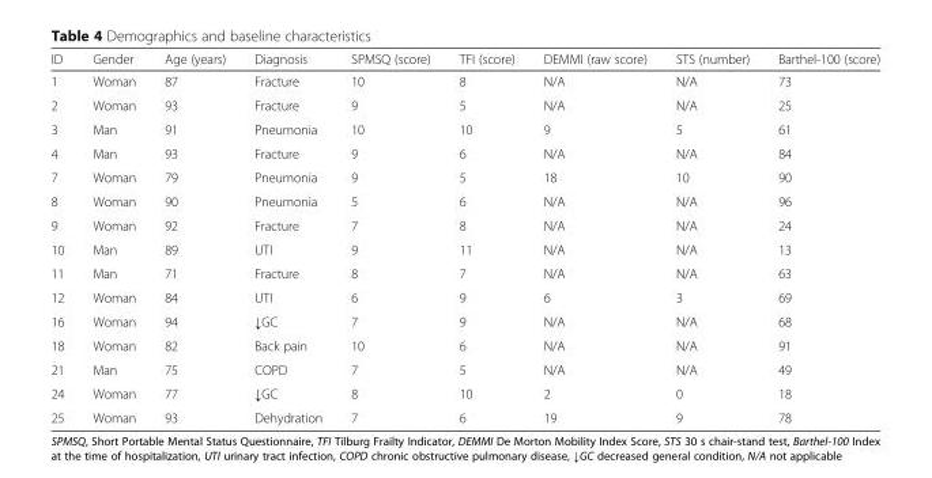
<table><thead><tr><td>ID</td><td>Gender</td><td>Age (years)</td><td>Diagnosis</td><td>SPMSQ (score)</td><td>TFI (score)</td><td>DEMMI (raw score)</td><td>STS (number)</td><td>Barthel-100 (score)</td></tr></thead><tbody><tr><td>1</td><td>Woman</td><td>87</td><td>Fracture</td><td>10</td><td>8</td><td>N/A</td><td>N/A</td><td>73</td></tr><tr><td>2</td><td>Woman</td><td>93</td><td>Fracture</td><td>9</td><td>5</td><td>N/A</td><td>N/A</td><td>25</td></tr><tr><td>3</td><td>Man</td><td>91</td><td>Pneumonia</td><td>10</td><td>10</td><td>9</td><td>5</td><td>61</td></tr><tr><td>4</td><td>Man</td><td>93</td><td>Fracture</td><td>9</td><td>6</td><td>N/A</td><td>N/A</td><td>84</td></tr><tr><td>7</td><td>Woman</td><td>79</td><td>Pneumonia</td><td>9</td><td>5</td><td>18</td><td>10</td><td>90</td></tr><tr><td>8</td><td>Woman</td><td>90</td><td>Pneumonia</td><td>5</td><td>6</td><td>N/A</td><td>N/A</td><td>96</td></tr><tr><td>9</td><td>Woman</td><td>92</td><td>Fracture</td><td>7</td><td>8</td><td>N/A</td><td>N/A</td><td>24</td></tr><tr><td>10</td><td>Man</td><td>89</td><td>UTI</td><td>9</td><td>11</td><td>N/A</td><td>N/A</td><td>13</td></tr><tr><td>11</td><td>Man</td><td>71</td><td>Fracture</td><td>8</td><td>7</td><td>N/A</td><td>N/A</td><td>63</td></tr><tr><td>12</td><td>Woman</td><td>84</td><td>UTI</td><td>6</td><td>9</td><td>6</td><td>3</td><td>69</td></tr><tr><td>16</td><td>Woman</td><td>94</td><td>↓GC</td><td>7</td><td>9</td><td>N/A</td><td>N/A</td><td>68</td></tr><tr><td>18</td><td>Woman</td><td>82</td><td>Back pain</td><td>10</td><td>6</td><td>N/A</td><td>N/A</td><td>91</td></tr><tr><td>21</td><td>Man</td><td>75</td><td>COPD</td><td>7</td><td>5</td><td>N/A</td><td>N/A</td><td>49</td></tr><tr><td>24</td><td>Woman</td><td>77</td><td>↓GC</td><td>8</td><td>10</td><td>2</td><td>0</td><td>18</td></tr><tr><td>25</td><td>Woman</td><td>93</td><td>Dehydration</td><td>7</td><td>6</td><td>19</td><td>9</td><td>78</td></tr></tbody></table>